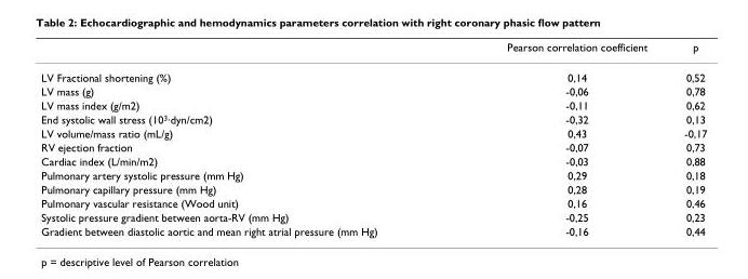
<table><thead><tr><td></td><td>Pearson correlation coefficient</td><td>p</td></tr></thead><tbody><tr><td>LV Fractional shortening (%)</td><td>0,14</td><td>0,52</td></tr><tr><td>LV mass (g)</td><td>-0,06</td><td>0,78</td></tr><tr><td>LV mass index (g/m2)</td><td>-0,11</td><td>0,62</td></tr><tr><td>End systolic wall stress (10<sup>3</sup>·dyn/cm2)</td><td>-0,32</td><td>0,13</td></tr><tr><td>LV volume/mass ratio (mL/g)</td><td>0,43</td><td>-0,17</td></tr><tr><td>RV ejection fraction</td><td>-0,07</td><td>0,73</td></tr><tr><td>Cardiac index (L/min/m2)</td><td>-0,03</td><td>0,88</td></tr><tr><td>Pulmonary artery systolic pressure (mm Hg)</td><td>0,29</td><td>0,18</td></tr><tr><td>Pulmonary capillary pressure (mm Hg)</td><td>0,28</td><td>0,19</td></tr><tr><td>Pulmonary vascular resistance (Wood unit)</td><td>0,16</td><td>0,46</td></tr><tr><td>Systolic pressure gradient between aorta-RV (mm Hg)</td><td>-0,25</td><td>0,23</td></tr><tr><td>Gradient between diastolic aortic and mean right atrial pressure (mm Hg)</td><td>-0,16</td><td>0,44</td></tr></tbody></table>